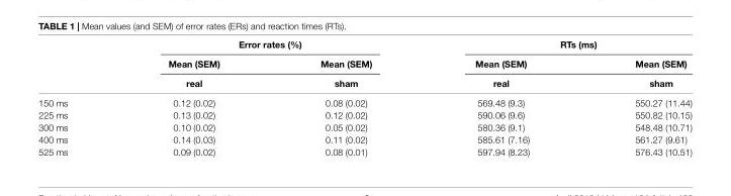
<table><thead><tr><td rowspan="3"></td><td colspan="2">Error rates (%)</td><td colspan="2">RTs (ms)</td></tr><tr><td rowspan="2">Mean (SEM) real</td><td rowspan="2">Mean (SEM) sham</td><td rowspan="2">Mean (SEM) real</td><td rowspan="2">Mean (SEM) sham</td></tr><tr></tr></thead><tbody><tr><td>150 ms</td><td>0.12 (0.02)</td><td>0.08 (0.02)</td><td>569.48 (9.3)</td><td>550.27 (11.44)</td></tr><tr><td>225 ms</td><td>0.13 (0.02)</td><td>0.12 (0.02)</td><td>590.06 (9.6)</td><td>550.82 (10.15)</td></tr><tr><td>300 ms</td><td>0.10 (0.02)</td><td>0.05 (0.02)</td><td>580.36 (9.1)</td><td>548.48 (10.71)</td></tr><tr><td>400 ms</td><td>0.14 (0.03)</td><td>0.11 (0.02)</td><td>585.61 (7.16)</td><td>561.27 (9.61)</td></tr><tr><td>525 ms</td><td>0.09 (0.02)</td><td>0.08 (0.01)</td><td>597.94 (8.23)</td><td>576.43 (10.51)</td></tr></tbody></table>